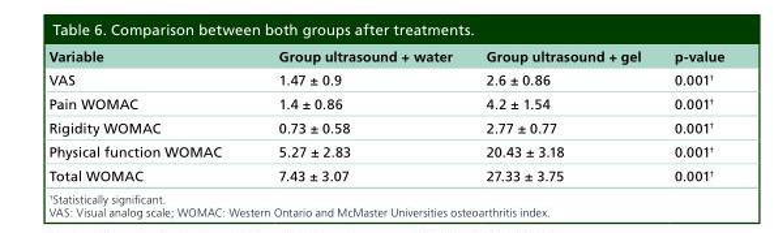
<table><thead><tr><td>Variable</td><td>Group ultrasound + water</td><td>Group ultrasound + gel</td><td>p-value</td></tr></thead><tbody><tr><td>VAS</td><td>1.47 ± 0.9</td><td>2.6 ± 0.86</td><td>0.001<sup>†</sup></td></tr><tr><td>Pain WOMAC</td><td>1.4 ± 0.86</td><td>4.2 ± 1.54</td><td>0.001<sup>†</sup></td></tr><tr><td>Rigidity WOMAC</td><td>0.73 ± 0.58</td><td>2.77 ± 0.77</td><td>0.001<sup>†</sup></td></tr><tr><td>Physical function WOMAC</td><td>5.27 ± 2.83</td><td>20.43 ± 3.18</td><td>0.001<sup>†</sup></td></tr><tr><td>Total WOMAC</td><td>7.43 ± 3.07</td><td>27.33 ± 3.75</td><td>0.001<sup>†</sup></td></tr></tbody></table>